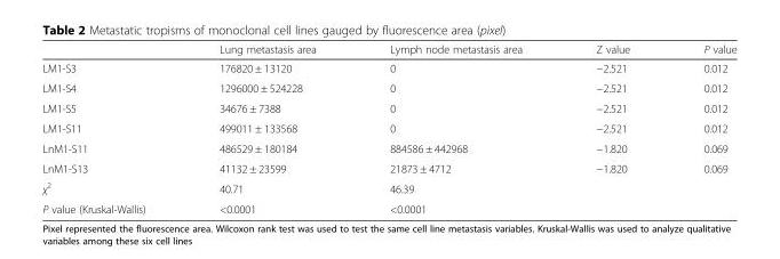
<table><thead><tr><td></td><td>Lung metastasis area</td><td>Lymph node metastasis area</td><td>Z value</td><td>P value</td></tr></thead><tbody><tr><td>LM1-S3</td><td>176820 ± 13120</td><td>0</td><td>−2.521</td><td>0.012</td></tr><tr><td>LM1-S4</td><td>1296000 ± 524228</td><td>0</td><td>−2.521</td><td>0.012</td></tr><tr><td>LM1-S5</td><td>34676 ± 7388</td><td>0</td><td>−2.521</td><td>0.012</td></tr><tr><td>LM1-S11</td><td>499011 ± 133568</td><td>0</td><td>−2.521</td><td>0.012</td></tr><tr><td>LnM1-S11</td><td>486529 ± 180184</td><td>884586 ± 442968</td><td>−1.820</td><td>0.069</td></tr><tr><td>LnM1-S13</td><td>41132 ± 23599</td><td>21873 ± 4712</td><td>−1.820</td><td>0.069</td></tr><tr><td>χ<sup>2</sup></td><td>40.71</td><td>46.39</td><td></td><td></td></tr><tr><td>P value (Kruskal-Wallis)</td><td>&lt;0.0001</td><td>&lt;0.0001</td><td></td><td></td></tr></tbody></table>